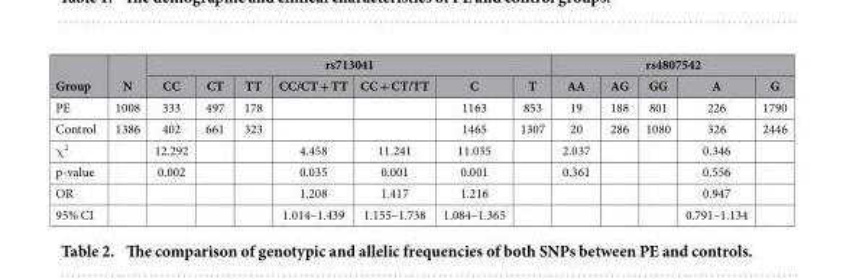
<table><thead><tr><td rowspan="2">Group</td><td rowspan="2">N</td><td colspan="7">rs713041</td><td colspan="5">rs4807542</td></tr><tr><td>CC</td><td>CT</td><td>TT</td><td>CC/CT + TT</td><td>CC + CT/TT</td><td>C</td><td>T</td><td>AA</td><td>AG</td><td>GG</td><td>A</td><td>G</td></tr></thead><tbody><tr><td>PE</td><td>1008</td><td>333</td><td>497</td><td>178</td><td></td><td></td><td>1163</td><td>853</td><td>19</td><td>188</td><td>801</td><td>226</td><td>1790</td></tr><tr><td>Control</td><td>1386</td><td>402</td><td>661</td><td>323</td><td></td><td></td><td>1465</td><td>1307</td><td>20</td><td>286</td><td>1080</td><td>326</td><td>2446</td></tr><tr><td>χ <sup>2</sup></td><td></td><td>12.292</td><td></td><td></td><td>4.458</td><td>11.241</td><td>11.035</td><td></td><td>2.037</td><td></td><td></td><td>0.346</td><td></td></tr><tr><td>p-value</td><td></td><td>0.002</td><td></td><td></td><td>0.035</td><td>0.001</td><td>0.001</td><td></td><td>0.361</td><td></td><td></td><td>0.556</td><td></td></tr><tr><td>OR</td><td></td><td></td><td></td><td></td><td>1.208</td><td>1.417</td><td>1.216</td><td></td><td></td><td></td><td></td><td>0.947</td><td></td></tr><tr><td>95% CI</td><td></td><td></td><td></td><td></td><td>1.014–1.439</td><td>1.155–1.738</td><td>1.084–1.365</td><td></td><td></td><td></td><td></td><td>0.791–1.134</td><td></td></tr></tbody></table>